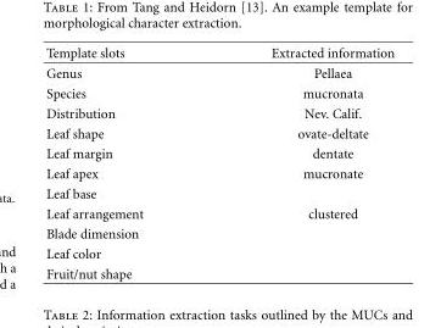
<table><thead><tr><td>Template slots</td><td>Extracted information</td></tr></thead><tbody><tr><td>Genus</td><td>Pellaea</td></tr><tr><td>Species</td><td>mucronata</td></tr><tr><td>Distribution</td><td>Nev. Calif.</td></tr><tr><td>Leaf shape</td><td>ovate-deltate</td></tr><tr><td>Leaf margin</td><td>dentate</td></tr><tr><td>Leaf apex</td><td>mucronate</td></tr><tr><td colspan="2">Leaf base</td></tr><tr><td>Leaf arrangement</td><td>clustered</td></tr><tr><td colspan="2">Blade dimension</td></tr><tr><td colspan="2">Leaf color</td></tr><tr><td>Fruit/nut shape</td><td></td></tr></tbody></table>